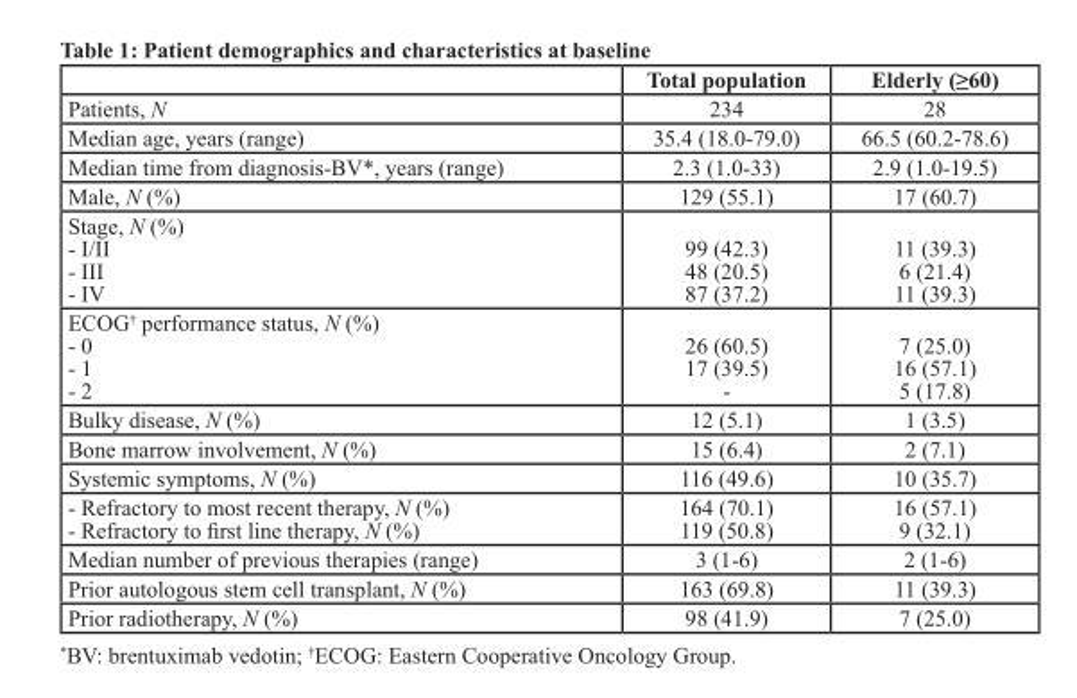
<table><thead><tr><td></td><td>Total population</td><td>Elderly (≥60)</td></tr></thead><tbody><tr><td>Patients, N</td><td>234</td><td>28</td></tr><tr><td>Median age, years (range)</td><td>35.4 (18.0-79.0)</td><td>66.5 (60.2-78.6)</td></tr><tr><td>Median time from diagnosis-BV*, years (range)</td><td>2.3 (1.0-33)</td><td>2.9 (1.0-19.5)</td></tr><tr><td>Male, N (%)</td><td>129 (55.1)</td><td>17 (60.7)</td></tr><tr><td>Stage, N (%) - I/II - III - IV</td><td>99 (42.3) 48 (20.5) 87 (37.2)</td><td>11 (39.3) 6 (21.4) 11 (39.3)</td></tr><tr><td>ECOG<sup>†</sup> performance status, N (%) - 0 - 1 - 2</td><td>26 (60.5) 17 (39.5) -</td><td>7 (25.0) 16 (57.1) 5 (17.8)</td></tr><tr><td>Bulky disease, N (%)</td><td>12 (5.1)</td><td>1 (3.5)</td></tr><tr><td>Bone marrow involvement, N (%)</td><td>15 (6.4)</td><td>2 (7.1)</td></tr><tr><td>Systemic symptoms, N (%)</td><td>116 (49.6)</td><td>10 (35.7)</td></tr><tr><td>- Refractory to most recent therapy, N (%) - Refractory to first line therapy, N (%)</td><td>164 (70.1) 119 (50.8)</td><td>16 (57.1) 9 (32.1)</td></tr><tr><td>Median number of previous therapies (range)</td><td>3 (1-6)</td><td>2 (1-6)</td></tr><tr><td>Prior autologous stem cell transplant, N (%)</td><td>163 (69.8)</td><td>11 (39.3)</td></tr><tr><td>Prior radiotherapy, N (%)</td><td>98 (41.9)</td><td>7 (25.0)</td></tr></tbody></table>